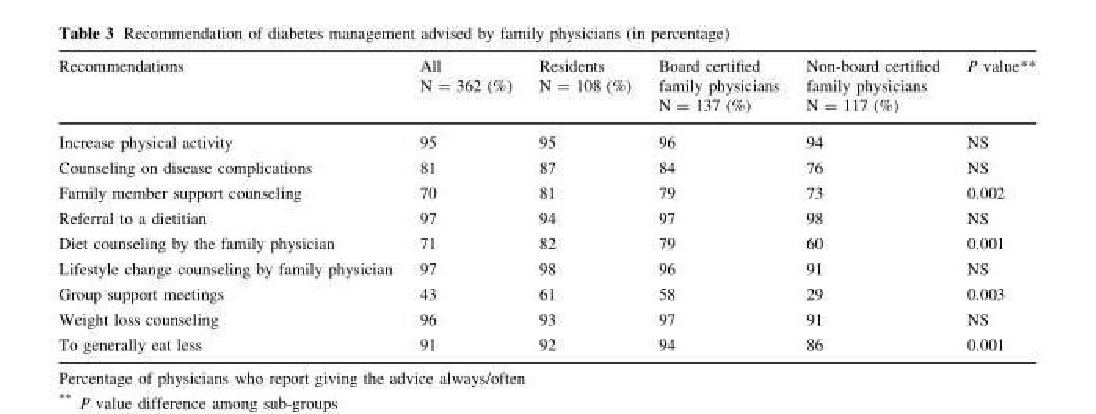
<table><thead><tr><td>Recommendations</td><td>All N = 362 (%)</td><td>Residents N = 108 (%)</td><td>Board certified family physicians N = 137 (%)</td><td>Non-board certified family physicians N = 117 (%)</td><td>P value**</td></tr></thead><tbody><tr><td>Increase physical activity</td><td>95</td><td>95</td><td>96</td><td>94</td><td>NS</td></tr><tr><td>Counseling on disease complications</td><td>81</td><td>87</td><td>84</td><td>76</td><td>NS</td></tr><tr><td>Family member support counseling</td><td>70</td><td>81</td><td>79</td><td>73</td><td>0.002</td></tr><tr><td>Referral to a dietitian</td><td>97</td><td>94</td><td>97</td><td>98</td><td>NS</td></tr><tr><td>Diet counseling by the family physician</td><td>71</td><td>82</td><td>79</td><td>60</td><td>0.001</td></tr><tr><td>Lifestyle change counseling by family physician</td><td>97</td><td>98</td><td>96</td><td>91</td><td>NS</td></tr><tr><td>Group support meetings</td><td>43</td><td>61</td><td>58</td><td>29</td><td>0.003</td></tr><tr><td>Weight loss counseling</td><td>96</td><td>93</td><td>97</td><td>91</td><td>NS</td></tr><tr><td>To generally eat less</td><td>91</td><td>92</td><td>94</td><td>86</td><td>0.001</td></tr></tbody></table>